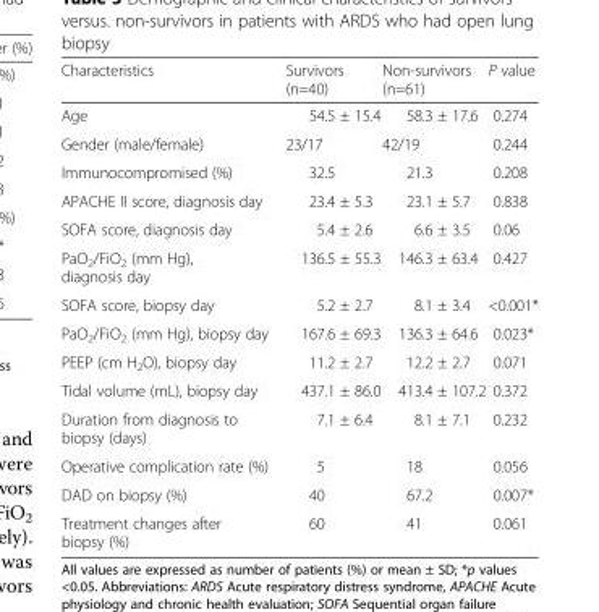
<table><thead><tr><td>Characteristics</td><td>Survivors (n=40)</td><td>Non-survivors (n=61)</td><td>P value</td></tr></thead><tbody><tr><td>Age</td><td>54.5 ± 15.4</td><td>58.3 ± 17.6</td><td>0.274</td></tr><tr><td>Gender (male/female)</td><td>23/17</td><td>42/19</td><td>0.244</td></tr><tr><td>Immunocompromised (%)</td><td>32.5</td><td>21.3</td><td>0.208</td></tr><tr><td>APACHE II score, diagnosis day</td><td>23.4 ± 5.3</td><td>23.1 ± 5.7</td><td>0.838</td></tr><tr><td>SOFA score, diagnosis day</td><td>5.4 ± 2.6</td><td>6.6 ± 3.5</td><td>0.06</td></tr><tr><td>PaO<sub>2</sub>/FiO<sub>2</sub> (mm Hg), diagnosis day</td><td>136.5 ± 55.3</td><td>146.3 ± 63.4</td><td>0.427</td></tr><tr><td>SOFA score, biopsy day</td><td>5.2 ± 2.7</td><td>8.1 ± 3.4</td><td>&lt;0.001*</td></tr><tr><td>PaO<sub>2</sub>/FiO<sub>2</sub> (mm Hg), biopsy day</td><td>167.6 ± 69.3</td><td>136.3 ± 64.6</td><td>0.023*</td></tr><tr><td>PEEP (cm H<sub>2</sub>O), biopsy day</td><td>11.2 ± 2.7</td><td>12.2 ± 2.7</td><td>0.071</td></tr><tr><td>Tidal volume (mL), biopsy day</td><td>437.1 ± 86.0</td><td>413.4 ± 107.2</td><td>0.372</td></tr><tr><td>Duration from diagnosis to biopsy (days)</td><td>7.1 ± 6.4</td><td>8.1 ± 7.1</td><td>0.232</td></tr><tr><td>Operative complication rate (%)</td><td>5</td><td>18</td><td>0.056</td></tr><tr><td>DAD on biopsy (%)</td><td>40</td><td>67.2</td><td>0.007*</td></tr><tr><td>Treatment changes after biopsy (%)</td><td>60</td><td>41</td><td>0.061</td></tr></tbody></table>